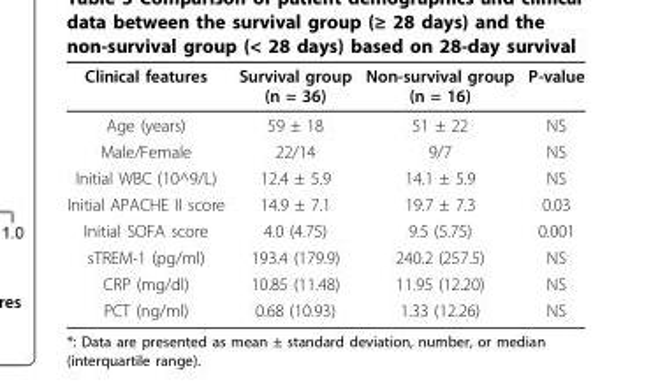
<table><thead><tr><td>Clinical features</td><td>Survival group (n = 36)</td><td>Non-survival group (n = 16)</td><td>P-value</td></tr></thead><tbody><tr><td>Age (years)</td><td>59 ± 18</td><td>51 ± 22</td><td>NS</td></tr><tr><td>Male/Female</td><td>22/14</td><td>9/7</td><td>NS</td></tr><tr><td>Initial WBC (10^9/L)</td><td>12.4 ± 5.9</td><td>14.1 ± 5.9</td><td>NS</td></tr><tr><td>Initial APACHE II score</td><td>14.9 ± 7.1</td><td>19.7 ± 7.3</td><td>0.03</td></tr><tr><td>Initial SOFA score</td><td>4.0 (4.75)</td><td>9.5 (5.75)</td><td>0.001</td></tr><tr><td>sTREM-1 (pg/ml)</td><td>193.4 (179.9)</td><td>240.2 (257.5)</td><td>NS</td></tr><tr><td>CRP (mg/dl)</td><td>10.85 (11.48)</td><td>11.95 (12.20)</td><td>NS</td></tr><tr><td>PCT (ng/ml)</td><td>0.68 (10.93)</td><td>1.33 (12.26)</td><td>NS</td></tr></tbody></table>